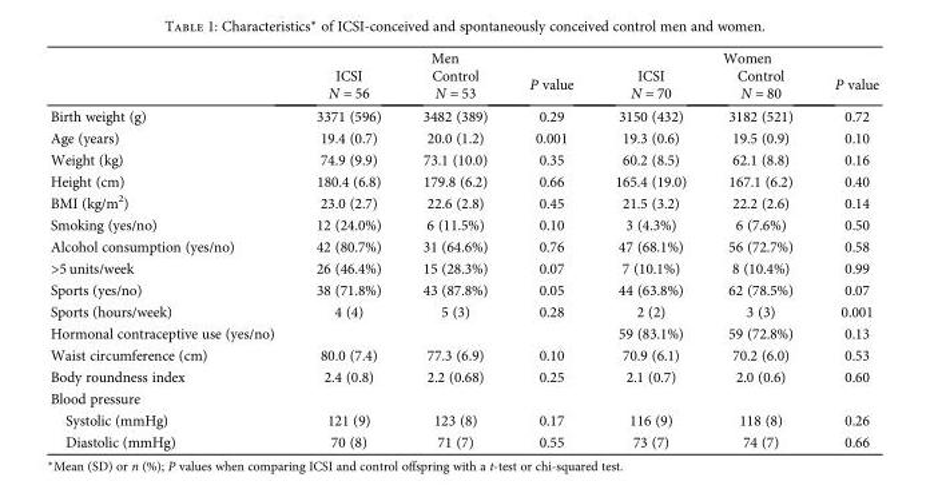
<table><thead><tr><td rowspan="2"></td><td colspan="3">Men</td><td colspan="3">Women</td></tr><tr><td>ICSI N = 56</td><td>Control N = 53</td><td>P value</td><td>ICSI N = 70</td><td>Control N = 80</td><td>P value</td></tr></thead><tbody><tr><td>Birth weight (g)</td><td>3371 (596)</td><td>3482 (389)</td><td>0.29</td><td>3150 (432)</td><td>3182 (521)</td><td>0.72</td></tr><tr><td>Age (years)</td><td>19.4 (0.7)</td><td>20.0 (1.2)</td><td>0.001</td><td>19.3 (0.6)</td><td>19.5 (0.9)</td><td>0.10</td></tr><tr><td>Weight (kg)</td><td>74.9 (9.9)</td><td>73.1 (10.0)</td><td>0.35</td><td>60.2 (8.5)</td><td>62.1 (8.8)</td><td>0.16</td></tr><tr><td>Height (cm)</td><td>180.4 (6.8)</td><td>179.8 (6.2)</td><td>0.66</td><td>165.4 (19.0)</td><td>167.1 (6.2)</td><td>0.40</td></tr><tr><td>BMI (kg/m<sup>2</sup>)</td><td>23.0 (2.7)</td><td>22.6 (2.8)</td><td>0.45</td><td>21.5 (3.2)</td><td>22.2 (2.6)</td><td>0.14</td></tr><tr><td>Smoking (yes/no)</td><td>12 (24.0%)</td><td>6 (11.5%)</td><td>0.10</td><td>3 (4.3%)</td><td>6 (7.6%)</td><td>0.50</td></tr><tr><td>Alcohol consumption (yes/no)</td><td>42 (80.7%)</td><td>31 (64.6%)</td><td>0.76</td><td>47 (68.1%)</td><td>56 (72.7%)</td><td>0.58</td></tr><tr><td>&gt;5 units/week</td><td>26 (46.4%)</td><td>15 (28.3%)</td><td>0.07</td><td>7 (10.1%)</td><td>8 (10.4%)</td><td>0.99</td></tr><tr><td>Sports (yes/no)</td><td>38 (71.8%)</td><td>43 (87.8%)</td><td>0.05</td><td>44 (63.8%)</td><td>62 (78.5%)</td><td>0.07</td></tr><tr><td>Sports (hours/week)</td><td>4 (4)</td><td>5 (3)</td><td>0.28</td><td>2 (2)</td><td>3 (3)</td><td>0.001</td></tr><tr><td>Hormonal contraceptive use (yes/no)</td><td></td><td></td><td></td><td>59 (83.1%)</td><td>59 (72.8%)</td><td>0.13</td></tr><tr><td>Waist circumference (cm)</td><td>80.0 (7.4)</td><td>77.3 (6.9)</td><td>0.10</td><td>70.9 (6.1)</td><td>70.2 (6.0)</td><td>0.53</td></tr><tr><td>Body roundness index</td><td>2.4 (0.8)</td><td>2.2 (0.68)</td><td>0.25</td><td>2.1 (0.7)</td><td>2.0 (0.6)</td><td>0.60</td></tr><tr><td colspan="7">Blood pressure</td></tr><tr><td>Systolic (mmHg)</td><td>121 (9)</td><td>123 (8)</td><td>0.17</td><td>116 (9)</td><td>118 (8)</td><td>0.26</td></tr><tr><td>Diastolic (mmHg)</td><td>70 (8)</td><td>71 (7)</td><td>0.55</td><td>73 (7)</td><td>74 (7)</td><td>0.66</td></tr></tbody></table>